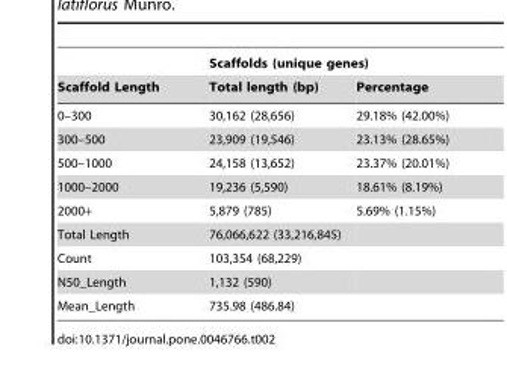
<table><thead><tr><td rowspan="2">Scaffold Length</td><td colspan="2">Scaffolds (unique genes)</td></tr><tr><td>Total length (bp)</td><td>Percentage</td></tr></thead><tbody><tr><td>0–300</td><td>30,162 (28,656)</td><td>29.18% (42.00%)</td></tr><tr><td>300–500</td><td>23,909 (19,546)</td><td>23.13% (28.65%)</td></tr><tr><td>500–1000</td><td>24,158 (13,652)</td><td>23.37% (20.01%)</td></tr><tr><td>1000–2000</td><td>19,236 (5,590)</td><td>18.61% (8.19%)</td></tr><tr><td>2000+</td><td>5,879 (785)</td><td>5.69% (1.15%)</td></tr><tr><td>Total Length</td><td>76,066,622 (33,216,845)</td><td></td></tr><tr><td>Count</td><td>103,354 (68,229)</td><td></td></tr><tr><td>N50_Length</td><td>1,132 (590)</td><td></td></tr><tr><td>Mean_Length</td><td>735.98 (486.84)</td><td></td></tr></tbody></table>